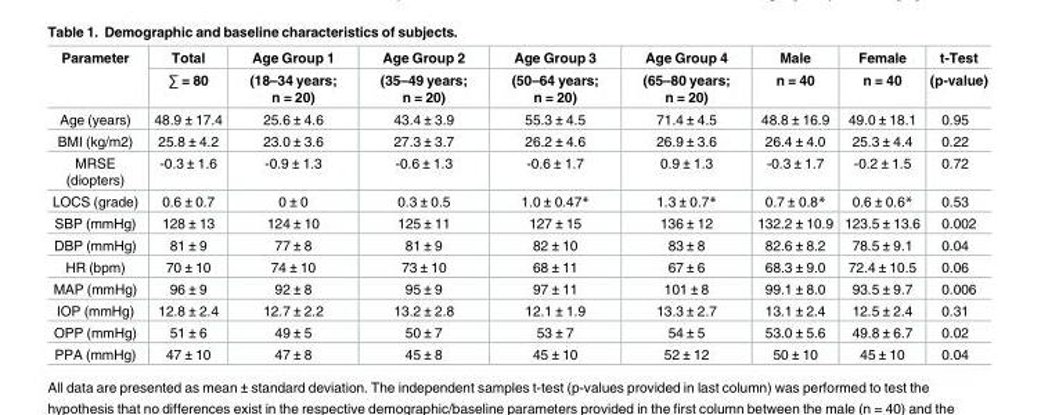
<table><thead><tr><td rowspan="2">Parameter</td><td rowspan="2">Total ∑ = 80</td><td rowspan="2">Age Group 1 (18–34 years; n = 20)</td><td rowspan="2">Age Group 2 (35–49 years; n = 20)</td><td rowspan="2">Age Group 3 (50–64 years; n = 20)</td><td rowspan="2">Age Group 4 (65–80 years; n = 20)</td><td rowspan="2">Male n = 40</td><td rowspan="2">Female n = 40</td><td rowspan="2">t-Test (p-value)</td></tr><tr></tr></thead><tbody><tr><td>Age (years)</td><td>48.9 ± 17.4</td><td>25.6 ± 4.6</td><td>43.4 ± 3.9</td><td>55.3 ± 4.5</td><td>71.4 ± 4.5</td><td>48.8 ± 16.9</td><td>49.0 ± 18.1</td><td>0.95</td></tr><tr><td>BMI (kg/m2)</td><td>25.8 ± 4.2</td><td>23.0 ± 3.6</td><td>27.3 ± 3.7</td><td>26.2 ± 4.6</td><td>26.9 ± 3.6</td><td>26.4 ± 4.0</td><td>25.3 ± 4.4</td><td>0.22</td></tr><tr><td>MRSE (diopters)</td><td>-0.3 ± 1.6</td><td>-0.9 ± 1.3</td><td>-0.6 ± 1.3</td><td>-0.6 ± 1.7</td><td>0.9 ± 1.3</td><td>-0.3 ± 1.7</td><td>-0.2 ± 1.5</td><td>0.72</td></tr><tr><td>LOCS (grade)</td><td>0.6 ± 0.7</td><td>0 ± 0</td><td>0.3 ± 0.5</td><td>1.0 ± 0.47*</td><td>1.3 ± 0.7*</td><td>0.7 ± 0.8*</td><td>0.6 ± 0.6*</td><td>0.53</td></tr><tr><td>SBP (mmHg)</td><td>128 ± 13</td><td>124 ± 10</td><td>125 ± 11</td><td>127 ± 15</td><td>136 ± 12</td><td>132.2 ± 10.9</td><td>123.5 ± 13.6</td><td>0.002</td></tr><tr><td>DBP (mmHg)</td><td>81 ± 9</td><td>77 ± 8</td><td>81 ± 9</td><td>82 ± 10</td><td>83 ± 8</td><td>82.6 ± 8.2</td><td>78.5 ± 9.1</td><td>0.04</td></tr><tr><td>HR (bpm)</td><td>70 ± 10</td><td>74 ± 10</td><td>73 ± 10</td><td>68 ± 11</td><td>67 ± 6</td><td>68.3 ± 9.0</td><td>72.4 ± 10.5</td><td>0.06</td></tr><tr><td>MAP (mmHg)</td><td>96 ± 9</td><td>92 ± 8</td><td>95 ± 9</td><td>97 ± 11</td><td>101 ± 8</td><td>99.1 ± 8.0</td><td>93.5 ± 9.7</td><td>0.006</td></tr><tr><td>IOP (mmHg)</td><td>12.8 ± 2.4</td><td>12.7 ± 2.2</td><td>13.2 ± 2.8</td><td>12.1 ± 1.9</td><td>13.3 ± 2.7</td><td>13.1 ± 2.4</td><td>12.5 ± 2.4</td><td>0.31</td></tr><tr><td>OPP (mmHg)</td><td>51 ± 6</td><td>49 ± 5</td><td>50 ± 7</td><td>53 ± 7</td><td>54 ± 5</td><td>53.0 ± 5.6</td><td>49.8 ± 6.7</td><td>0.02</td></tr><tr><td>PPA (mmHg)</td><td>47 ± 10</td><td>47 ± 8</td><td>45 ± 8</td><td>45 ± 10</td><td>52 ± 12</td><td>50 ± 10</td><td>45 ± 10</td><td>0.04</td></tr></tbody></table>